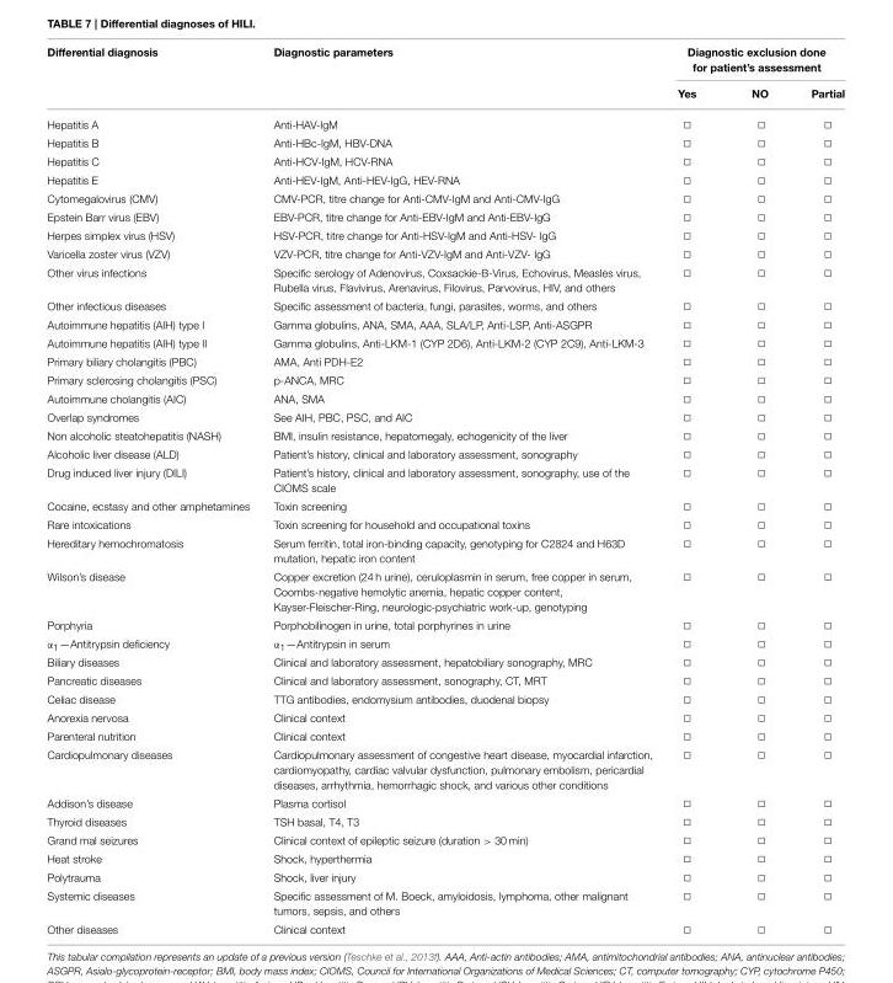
<table><thead><tr><td rowspan="2">Differential diagnosis</td><td rowspan="2">Diagnostic parameters</td><td colspan="3">Diagnostic exclusion done for patient’s assessment</td></tr><tr><td>Yes</td><td>NO</td><td>Partial</td></tr></thead><tbody><tr><td>Hepatitis A</td><td>Anti-HAV-IgM</td><td>□</td><td>□</td><td>□</td></tr><tr><td>Hepatitis B</td><td>Anti-HBc-IgM, HBV-DNA</td><td>□</td><td>□</td><td>□</td></tr><tr><td>Hepatitis C</td><td>Anti-HCV-IgM, HCV-RNA</td><td>□</td><td>□</td><td>□</td></tr><tr><td>Hepatitis E</td><td>Anti-HEV-IgM, Anti-HEV-IgG, HEV-RNA</td><td>□</td><td>□</td><td>□</td></tr><tr><td>Cytomegalovirus (CMV)</td><td>CMV-PCR, titre change for Anti-CMV-IgM and Anti-CMV-IgG</td><td>□</td><td>□</td><td>□</td></tr><tr><td>Epstein Barr virus (EBV)</td><td>EBV-PCR, titre change for Anti-EBV-IgM and Anti-EBV-IgG</td><td>□</td><td>□</td><td>□</td></tr><tr><td>Herpes simplex virus (HSV)</td><td>HSV-PCR, titre change for Anti-HSV-IgM and Anti-HSV- IgG</td><td>□</td><td>□</td><td>□</td></tr><tr><td>Varicella zoster virus (VZV)</td><td>VZV-PCR, titre change for Anti-VZV-IgM and Anti-VZV- IgG</td><td>□</td><td>□</td><td>□</td></tr><tr><td>Other virus infections</td><td>Specific serology of Adenovirus, Coxsackie-B-Virus, Echovirus, Measles virus, Rubella virus, Flavivirus, Arenavirus, Filovirus, Parvovirus, HIV, and others</td><td>□</td><td>□</td><td>□</td></tr><tr><td>Other infectious diseases</td><td>Specific assessment of bacteria, fungi, parasites, worms, and others</td><td>□</td><td>□</td><td>□</td></tr><tr><td>Autoimmune hepatitis (AIH) type I</td><td>Gamma globulins, ANA, SMA, AAA, SLA/LP, Anti-LSP, Anti-ASGPR</td><td>□</td><td>□</td><td>□</td></tr><tr><td>Autoimmune hepatitis (AIH) type II</td><td>Gamma globulins, Anti-LKM-1 (CYP 2D6), Anti-LKM-2 (CYP 2C9), Anti-LKM-3</td><td>□</td><td>□</td><td>□</td></tr><tr><td>Primary biliary cholangitis (PBC)</td><td>AMA, Anti PDH-E2</td><td>□</td><td>□</td><td>□</td></tr><tr><td>Primary sclerosing cholangitis (PSC)</td><td>p-ANCA, MRC</td><td>□</td><td>□</td><td>□</td></tr><tr><td>Autoimmune cholangitis (AIC)</td><td>ANA, SMA</td><td>□</td><td>□</td><td>□</td></tr><tr><td>Overlap syndromes</td><td>See AIH, PBC, PSC, and AIC</td><td>□</td><td>□</td><td>□</td></tr><tr><td>Non alcoholic steatohepatitis (NASH)</td><td>BMI, insulin resistance, hepatomegaly, echogenicity of the liver</td><td>□</td><td>□</td><td>□</td></tr><tr><td>Alcoholic liver disease (ALD)</td><td>Patient’s history, clinical and laboratory assessment, sonography</td><td>□</td><td>□</td><td>□</td></tr><tr><td>Drug induced liver injury (DILI)</td><td>Patient’s history, clinical and laboratory assessment, sonography, use of the CIOMS scale</td><td>□</td><td>□</td><td>□</td></tr><tr><td>Cocaine, ecstasy and other amphetamines</td><td>Toxin screening</td><td>□</td><td>□</td><td>□</td></tr><tr><td>Rare intoxications</td><td>Toxin screening for household and occupational toxins</td><td>□</td><td>□</td><td>□</td></tr><tr><td>Hereditary hemochromatosis</td><td>Serum ferritin, total iron-binding capacity, genotyping for C2824 and H63D mutation, hepatic iron content</td><td>□</td><td>□</td><td>□</td></tr><tr><td>Wilson’s disease</td><td>Copper excretion (24 h urine), ceruloplasmin in serum, free copper in serum, Coombs-negative hemolytic anemia, hepatic copper content, Kayser-Fleischer-Ring, neurologic-psychiatric work-up, genotyping</td><td>□</td><td>□</td><td>□</td></tr><tr><td>Porphyria</td><td>Porphobilinogen in urine, total porphyrines in urine</td><td>□</td><td>□</td><td>□</td></tr><tr><td>α<sub>1</sub>—Antitrypsin deficiency</td><td>α<sub>1</sub>—Antitrypsin in serum</td><td>□</td><td>□</td><td>□</td></tr><tr><td>Biliary diseases</td><td>Clinical and laboratory assessment, hepatobiliary sonography, MRC</td><td>□</td><td>□</td><td>□</td></tr><tr><td>Pancreatic diseases</td><td>Clinical and laboratory assessment, sonography, CT, MRT</td><td>□</td><td>□</td><td>□</td></tr><tr><td>Celiac disease</td><td>TTG antibodies, endomysium antibodies, duodenal biopsy</td><td>□</td><td>□</td><td>□</td></tr><tr><td>Anorexia nervosa</td><td>Clinical context</td><td>□</td><td>□</td><td>□</td></tr><tr><td>Parenteral nutrition</td><td>Clinical context</td><td>□</td><td>□</td><td>□</td></tr><tr><td>Cardiopulmonary diseases</td><td>Cardiopulmonary assessment of congestive heart disease, myocardial infarction, cardiomyopathy, cardiac valvular dysfunction, pulmonary embolism, pericardial diseases, arrhythmia, hemorrhagic shock, and various other conditions</td><td>□</td><td>□</td><td>□</td></tr><tr><td>Addison’s disease</td><td>Plasma cortisol</td><td>□</td><td>□</td><td>□</td></tr><tr><td>Thyroid diseases</td><td>TSH basal, T4, T3</td><td>□</td><td>□</td><td>□</td></tr><tr><td>Grand mal seizures</td><td>Clinical context of epileptic seizure (duration &gt; 30 min)</td><td>□</td><td>□</td><td>□</td></tr><tr><td>Heat stroke</td><td>Shock, hyperthermia</td><td>□</td><td>□</td><td>□</td></tr><tr><td>Polytrauma</td><td>Shock, liver injury</td><td>□</td><td>□</td><td>□</td></tr><tr><td>Systemic diseases</td><td>Specific assessment of M. Boeck, amyloidosis, lymphoma, other malignant tumors, sepsis, and others</td><td>□</td><td>□</td><td>□</td></tr><tr><td>Other diseases</td><td>Clinical context</td><td>□</td><td>□</td><td>□</td></tr></tbody></table>